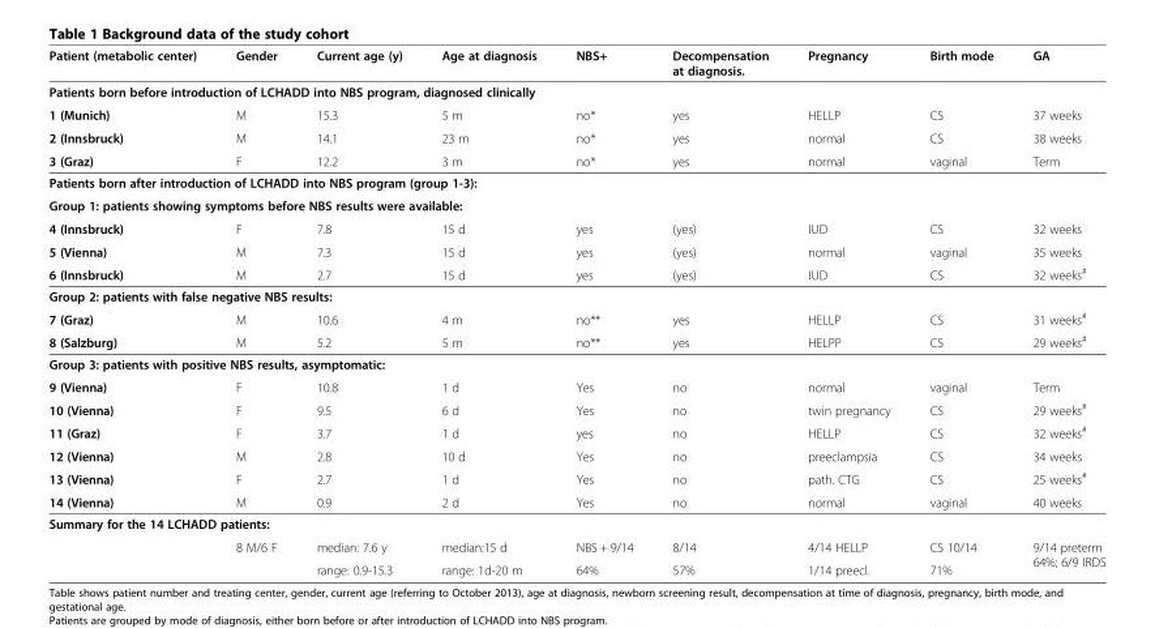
<table><thead><tr><td>Patient (metabolic center)</td><td>Gender</td><td>Current age (y)</td><td>Age at diagnosis</td><td>NBS+</td><td>Decompensation at diagnosis.</td><td>Pregnancy</td><td>Birth mode</td><td>GA</td></tr></thead><tbody><tr><td colspan="9">Patients born before introduction of LCHADD into NBS program, diagnosed clinically</td></tr><tr><td>1 (Munich)</td><td>M</td><td>15.3</td><td>5 m</td><td>no*</td><td>yes</td><td>HELLP</td><td>CS</td><td>37 weeks</td></tr><tr><td>2 (Innsbruck)</td><td>M</td><td>14.1</td><td>23 m</td><td>no*</td><td>yes</td><td>normal</td><td>CS</td><td>38 weeks</td></tr><tr><td>3 (Graz)</td><td>F</td><td>12.2</td><td>3 m</td><td>no*</td><td>yes</td><td>normal</td><td>vaginal</td><td>Term</td></tr><tr><td colspan="9">Patients born after introduction of LCHADD into NBS program (group 1-3):</td></tr><tr><td colspan="9">Group 1: patients showing symptoms before NBS results were available:</td></tr><tr><td>4 (Innsbruck)</td><td>F</td><td>7.8</td><td>15 d</td><td>yes</td><td>(yes)</td><td>IUD</td><td>CS</td><td>32 weeks</td></tr><tr><td>5 (Vienna)</td><td>M</td><td>7.3</td><td>15 d</td><td>yes</td><td>(yes)</td><td>normal</td><td>vaginal</td><td>35 weeks</td></tr><tr><td>6 (Innsbruck)</td><td>M</td><td>2.7</td><td>15 d</td><td>yes</td><td>(yes)</td><td>IUD</td><td>CS</td><td>32 weeks<sup>#</sup></td></tr><tr><td colspan="9">Group 2: patients with false negative NBS results:</td></tr><tr><td>7 (Graz)</td><td>M</td><td>10.6</td><td>4 m</td><td>no**</td><td>yes</td><td>HELLP</td><td>CS</td><td>31 weeks<sup>#</sup></td></tr><tr><td>8 (Salzburg)</td><td>M</td><td>5.2</td><td>5 m</td><td>no**</td><td>yes</td><td>HELPP</td><td>CS</td><td>29 weeks<sup>#</sup></td></tr><tr><td colspan="9">Group 3: patients with positive NBS results, asymptomatic:</td></tr><tr><td>9 (Vienna)</td><td>F</td><td>10.8</td><td>1 d</td><td>Yes</td><td>no</td><td>normal</td><td>vaginal</td><td>Term</td></tr><tr><td>10 (Vienna)</td><td>F</td><td>9.5</td><td>6 d</td><td>Yes</td><td>no</td><td>twin pregnancy</td><td>CS</td><td>29 weeks<sup>#</sup></td></tr><tr><td>11 (Graz)</td><td>F</td><td>3.7</td><td>1 d</td><td>yes</td><td>no</td><td>HELLP</td><td>CS</td><td>32 weeks<sup>#</sup></td></tr><tr><td>12 (Vienna)</td><td>M</td><td>2.8</td><td>10 d</td><td>Yes</td><td>no</td><td>preeclampsia</td><td>CS</td><td>34 weeks</td></tr><tr><td>13 (Vienna)</td><td>F</td><td>2.7</td><td>1 d</td><td>Yes</td><td>no</td><td>path. CTG</td><td>CS</td><td>25 weeks<sup>#</sup></td></tr><tr><td>14 (Vienna)</td><td>M</td><td>0.9</td><td>2 d</td><td>Yes</td><td>no</td><td>normal</td><td>vaginal</td><td>40 weeks</td></tr><tr><td colspan="9">Summary for the 14 LCHADD patients:</td></tr><tr><td rowspan="2"></td><td rowspan="2">8 M/6 F</td><td>median: 7.6 y</td><td>median:15 d</td><td>NBS + 9/14</td><td>8/14</td><td>4/14 HELLP</td><td>CS 10/14</td><td rowspan="2">9/14 preterm 64%; 6/9 IRDS</td></tr><tr><td>range: 0.9-15.3</td><td>range: 1d-20 m</td><td>64%</td><td>57%</td><td>1/14 preecl.</td><td>71%</td></tr></tbody></table>